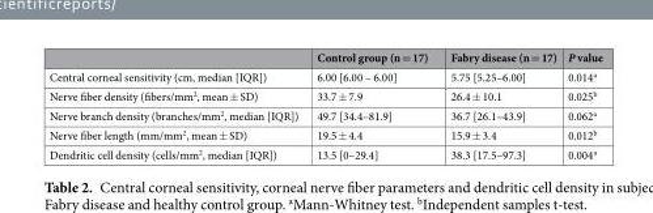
<table><thead><tr><td></td><td>Control group (n = 17)</td><td>Fabry disease (n = 17)</td><td>P value</td></tr></thead><tbody><tr><td>Central corneal sensitivity (cm, median [IQR])</td><td>6.00 [6.00 – 6.00]</td><td>5.75 [5.25–6.00]</td><td>0.014<sup>a</sup></td></tr><tr><td>Nerve fiber density (fibers/mm<sup>2</sup>, mean ± SD)</td><td>33.7 ± 7.9</td><td>26.4 ± 10.1</td><td>0.025<sup>b</sup></td></tr><tr><td>Nerve branch density (branches/mm<sup>2</sup>, median [IQR])</td><td>49.7 [34.4–81.9]</td><td>36.7 [26.1–43.9]</td><td>0.062<sup>a</sup></td></tr><tr><td>Nerve fiber length (mm/mm<sup>2</sup>, mean ± SD)</td><td>19.5 ± 4.4</td><td>15.9 ± 3.4</td><td>0.012<sup>b</sup></td></tr><tr><td>Dendritic cell density (cells/mm<sup>2</sup>, median [IQR])</td><td>13.5 [0–29.4]</td><td>38.3 [17.5–97.3]</td><td>0.004<sup>a</sup></td></tr></tbody></table>